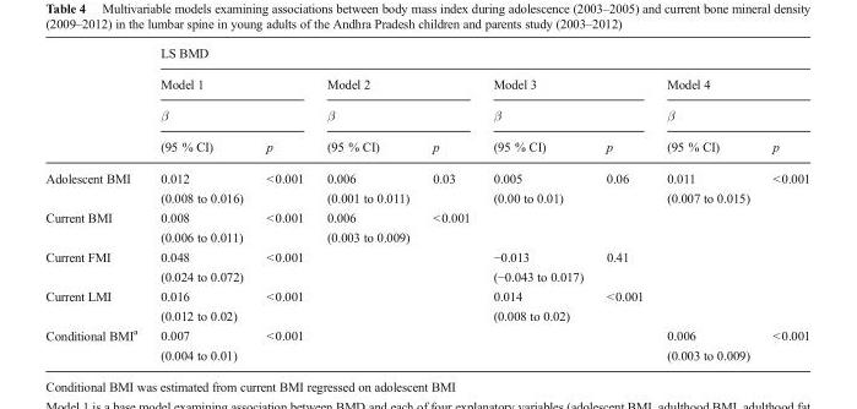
<table><thead><tr><td rowspan="4"></td><td colspan="8">LS BMD</td></tr><tr><td rowspan="2" colspan="2">Model 1 β</td><td rowspan="2" colspan="2">Model 2 β</td><td rowspan="2" colspan="2">Model 3 β</td><td rowspan="2" colspan="2">Model 4 β</td></tr><tr></tr><tr><td>(95 % CI)</td><td>p</td><td>(95 % CI)</td><td>p</td><td>(95 % CI)</td><td>p</td><td>(95 % CI)</td><td>p</td></tr></thead><tbody><tr><td rowspan="2">Adolescent BMI</td><td>0.012</td><td>&lt;0.001</td><td>0.006</td><td>0.03</td><td>0.005</td><td>0.06</td><td>0.011</td><td>&lt;0.001</td></tr><tr><td>(0.008 to 0.016)</td><td></td><td>(0.001 to 0.011)</td><td></td><td>(0.00 to 0.01)</td><td></td><td>(0.007 to 0.015)</td><td></td></tr><tr><td rowspan="2">Current BMI</td><td>0.008</td><td>&lt;0.001</td><td>0.006</td><td>&lt;0.001</td><td></td><td></td><td></td><td></td></tr><tr><td>(0.006 to 0.011)</td><td></td><td>(0.003 to 0.009)</td><td></td><td></td><td></td><td></td><td></td></tr><tr><td rowspan="2">Current FMI</td><td>0.048</td><td>&lt;0.001</td><td></td><td></td><td>−0.013</td><td>0.41</td><td></td><td></td></tr><tr><td>(0.024 to 0.072)</td><td></td><td></td><td></td><td>(−0.043 to 0.017)</td><td></td><td></td><td></td></tr><tr><td rowspan="2">Current LMI</td><td>0.016</td><td>&lt;0.001</td><td></td><td></td><td>0.014</td><td>&lt;0.001</td><td></td><td></td></tr><tr><td>(0.012 to 0.02)</td><td></td><td></td><td></td><td>(0.008 to 0.02)</td><td></td><td></td><td></td></tr><tr><td rowspan="2">Conditional BMI<sup>a</sup></td><td>0.007</td><td>&lt;0.001</td><td></td><td></td><td></td><td></td><td>0.006</td><td>&lt;0.001</td></tr><tr><td>(0.004 to 0.01)</td><td></td><td></td><td></td><td></td><td></td><td>(0.003 to 0.009)</td><td></td></tr></tbody></table>